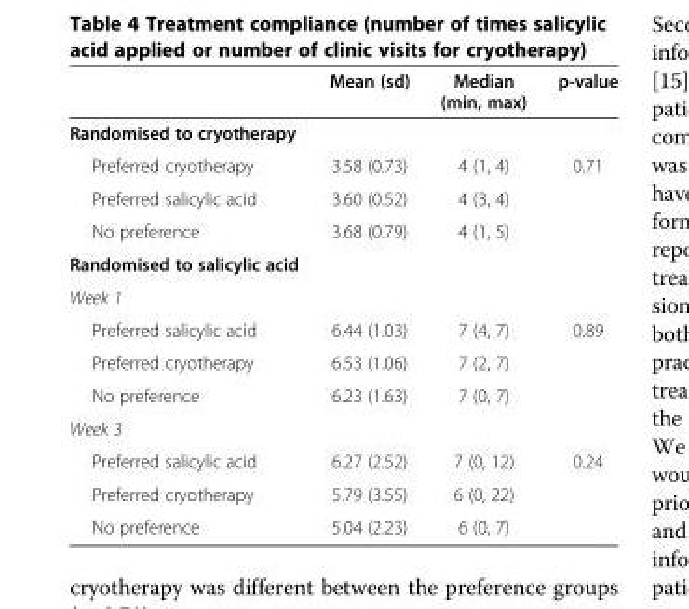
<table><thead><tr><td></td><td>Mean (sd)</td><td>Median (min, max)</td><td>p-value</td></tr></thead><tbody><tr><td colspan="4">Randomised to cryotherapy</td></tr><tr><td>Preferred cryotherapy</td><td>3.58 (0.73)</td><td>4 (1, 4)</td><td rowspan="3">0.71</td></tr><tr><td>Preferred salicylic acid</td><td>3.60 (0.52)</td><td>4 (3, 4)</td></tr><tr><td>No preference</td><td>3.68 (0.79)</td><td>4 (1, 5)</td></tr><tr><td colspan="4">Randomised to salicylic acid</td></tr><tr><td colspan="4">Week 1</td></tr><tr><td>Preferred salicylic acid</td><td>6.44 (1.03)</td><td>7 (4, 7)</td><td rowspan="3">0.89</td></tr><tr><td>Preferred cryotherapy</td><td>6.53 (1.06)</td><td>7 (2, 7)</td></tr><tr><td>No preference</td><td>6.23 (1.63)</td><td>7 (0, 7)</td></tr><tr><td colspan="4">Week 3</td></tr><tr><td>Preferred salicylic acid</td><td>6.27 (2.52)</td><td>7 (0, 12)</td><td>0.24</td></tr><tr><td>Preferred cryotherapy</td><td>5.79 (3.55)</td><td>6 (0, 22)</td><td></td></tr><tr><td>No preference</td><td>5.04 (2.23)</td><td>6 (0, 7)</td><td></td></tr></tbody></table>